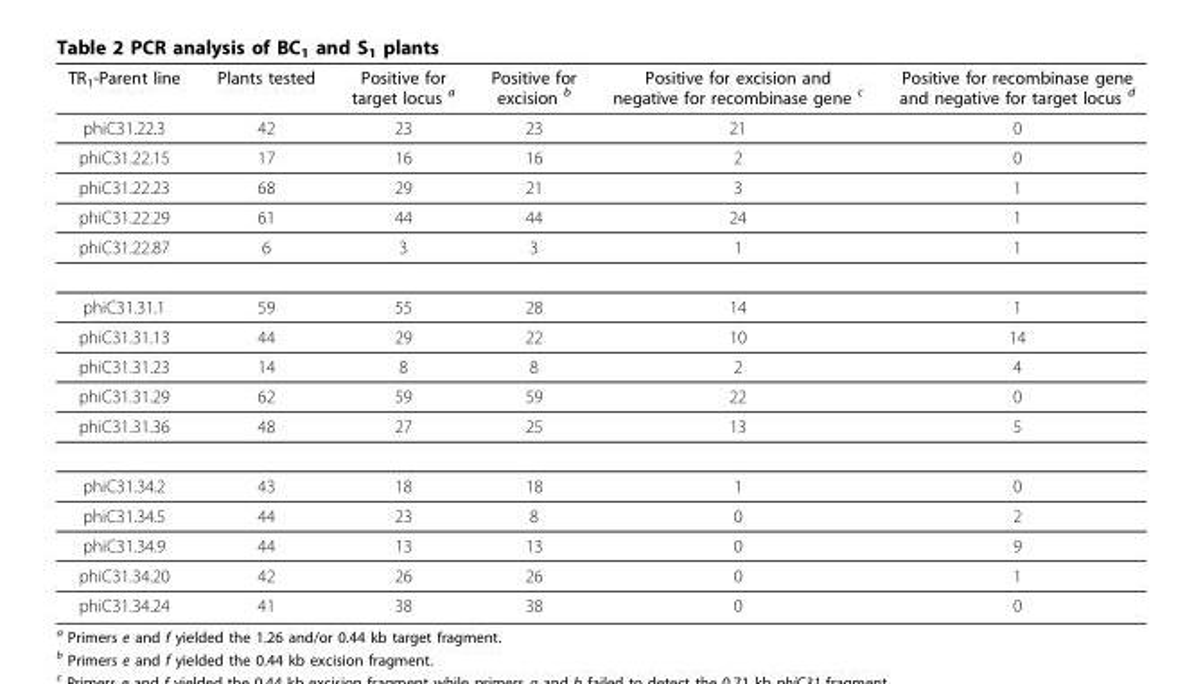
<table><thead><tr><td>TR1-Parent line</td><td>Plants tested</td><td>Positive for target locus a</td><td>Positive for excision b</td><td>Positive for excision and negative for recombinase gene c</td><td>Positive for recombinase gene and negative for target locus d</td></tr></thead><tbody><tr><td>phiC31.22.3</td><td>42</td><td>23</td><td>23</td><td>21</td><td>0</td></tr><tr><td>phiC31.22.15</td><td>17</td><td>16</td><td>16</td><td>2</td><td>0</td></tr><tr><td>phiC31.22.23</td><td>68</td><td>29</td><td>21</td><td>3</td><td>1</td></tr><tr><td>phiC31.22.29</td><td>61</td><td>44</td><td>44</td><td>24</td><td>1</td></tr><tr><td>phiC31.22.87</td><td>6</td><td>3</td><td>3</td><td>1</td><td>1</td></tr><tr><td>phiC31.31.1</td><td>59</td><td>55</td><td>28</td><td>14</td><td>1</td></tr><tr><td>phiC31.31.13</td><td>44</td><td>29</td><td>22</td><td>10</td><td>14</td></tr><tr><td>phiC31.31.23</td><td>14</td><td>8</td><td>8</td><td>2</td><td>4</td></tr><tr><td>phiC31.31.29</td><td>62</td><td>59</td><td>59</td><td>22</td><td>0</td></tr><tr><td>phiC31.31.36</td><td>48</td><td>27</td><td>25</td><td>13</td><td>5</td></tr><tr><td>phiC31.34.2</td><td>43</td><td>18</td><td>18</td><td>1</td><td>0</td></tr><tr><td>phiC31.34.5</td><td>44</td><td>23</td><td>8</td><td>0</td><td>2</td></tr><tr><td>phiC31.34.9</td><td>44</td><td>13</td><td>13</td><td>0</td><td>9</td></tr><tr><td>phiC31.34.20</td><td>42</td><td>26</td><td>26</td><td>0</td><td>1</td></tr><tr><td>phiC31.34.24</td><td>41</td><td>38</td><td>38</td><td>0</td><td>0</td></tr></tbody></table>